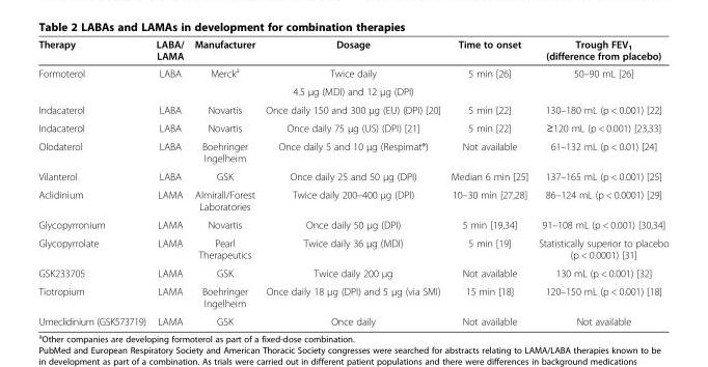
<table><thead><tr><td>Therapy</td><td>LABA/ LAMA</td><td>Manufacturer</td><td>Dosage</td><td>Time to onset</td><td>Trough FEV<sub>1</sub> (difference from placebo)</td></tr></thead><tbody><tr><td rowspan="2">Formoterol</td><td rowspan="2">LABA</td><td rowspan="2">Merck<sup>a</sup></td><td>Twice daily</td><td rowspan="2">5 min [26]</td><td rowspan="2">50–90 mL [26]</td></tr><tr><td>4.5 μg (MDI) and 12 μg (DPI)</td></tr><tr><td>Indacaterol</td><td>LABA</td><td>Novartis</td><td>Once daily 150 and 300 μg (EU) (DPI) [20]</td><td>5 min [22]</td><td>130–180 mL (p &lt; 0.001) [22]</td></tr><tr><td>Indacaterol</td><td>LABA</td><td>Novartis</td><td>Once daily 75 μg (US) (DPI) [21]</td><td>5 min [22]</td><td>≥120 mL (p &lt; 0.001) [23,33]</td></tr><tr><td>Olodaterol</td><td>LABA</td><td>Boehringer Ingelheim</td><td>Once daily 5 and 10 μg (Respimat®)</td><td>Not available</td><td>61–132 mL (p &lt; 0.01) [24]</td></tr><tr><td>Vilanterol</td><td>LABA</td><td>GSK</td><td>Once daily 25 and 50 μg (DPI)</td><td>Median 6 min [25]</td><td>137–165 mL (p &lt; 0.001) [25]</td></tr><tr><td>Aclidinium</td><td>LAMA</td><td>Almirall/Forest Laboratories</td><td>Twice daily 200–400 μg (DPI)</td><td>10–30 min [27,28]</td><td>86–124 mL (p &lt; 0.0001) [29]</td></tr><tr><td>Glycopyrronium</td><td>LAMA</td><td>Novartis</td><td>Once daily 50 μg (DPI)</td><td>5 min [19,34]</td><td>91–108 mL (p &lt; 0.001) [30,34]</td></tr><tr><td>Glycopyrrolate</td><td>LAMA</td><td>Pearl Therapeutics</td><td>Twice daily 36 μg (MDI)</td><td>5 min [19]</td><td>Statistically superior to placebo (p &lt; 0.0001) [31]</td></tr><tr><td>GSK233705</td><td>LAMA</td><td>GSK</td><td>Twice daily 200 μg</td><td>Not available</td><td>130 mL (p &lt; 0.001) [32]</td></tr><tr><td>Tiotropium</td><td>LAMA</td><td>Boehringer Ingelheim</td><td>Once daily 18 μg (DPI) and 5 μg (via SMI)</td><td>15 min [18]</td><td>120–150 mL (p &lt; 0.001) [18]</td></tr><tr><td>Umeclidinium (GSK573719)</td><td>LAMA</td><td>GSK</td><td>Once daily</td><td>Not available</td><td>Not available</td></tr></tbody></table>